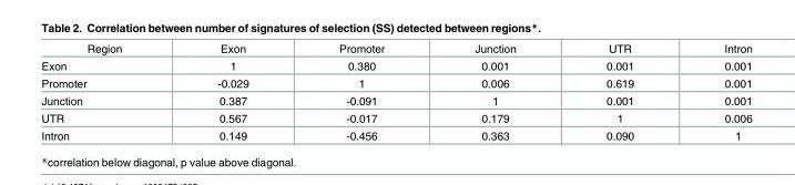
<table><tbody><tr><td>Region</td><td>Exon</td><td>Promoter</td><td>Junction</td><td>UTR</td><td>Intron</td></tr><tr><td>Exon</td><td>1</td><td>0.380</td><td>0.001</td><td>0.001</td><td>0.001</td></tr><tr><td>Promoter</td><td>-0.029</td><td>1</td><td>0.006</td><td>0.619</td><td>0.001</td></tr><tr><td>Junction</td><td>0.387</td><td>-0.091</td><td>1</td><td>0.001</td><td>0.001</td></tr><tr><td>UTR</td><td>0.567</td><td>-0.017</td><td>0.179</td><td>1</td><td>0.006</td></tr><tr><td>Intron</td><td>0.149</td><td>-0.456</td><td>0.363</td><td>0.090</td><td>1</td></tr></tbody></table>